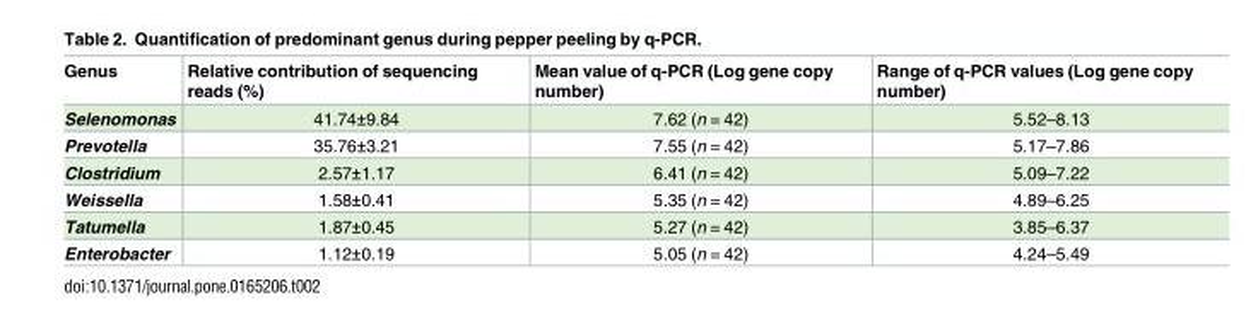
<table><thead><tr><td>Genus</td><td>Relative contribution of sequencing reads (%)</td><td>Mean value of q-PCR (Log gene copy number)</td><td>Range of q-PCR values (Log gene copy number)</td></tr></thead><tbody><tr><td>Selenomonas</td><td>41.74±9.84</td><td>7.62 (n = 42)</td><td>5.52–8.13</td></tr><tr><td>Prevotella</td><td>35.76±3.21</td><td>7.55 (n = 42)</td><td>5.17–7.86</td></tr><tr><td>Clostridium</td><td>2.57±1.17</td><td>6.41 (n = 42)</td><td>5.09–7.22</td></tr><tr><td>Weissella</td><td>1.58±0.41</td><td>5.35 (n = 42)</td><td>4.89–6.25</td></tr><tr><td>Tatumella</td><td>1.87±0.45</td><td>5.27 (n = 42)</td><td>3.85–6.37</td></tr><tr><td>Enterobacter</td><td>1.12±0.19</td><td>5.05 (n = 42)</td><td>4.24–5.49</td></tr></tbody></table>